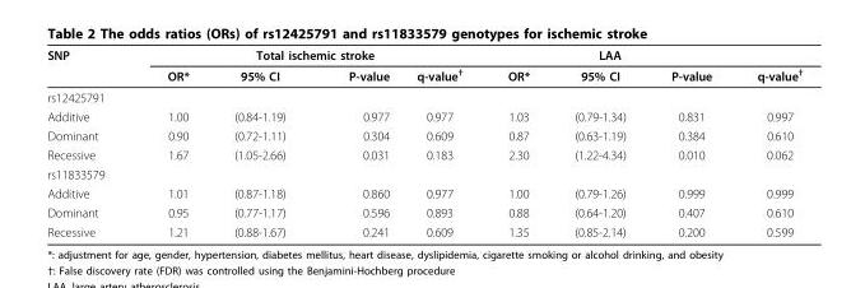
<table><thead><tr><td rowspan="2">SNP</td><td colspan="4">Total ischemic stroke</td><td colspan="3">LAA</td><td rowspan="2">q-value<sup>†</sup></td></tr><tr><td>OR*</td><td>95% CI</td><td>P-value</td><td>q-value<sup>†</sup></td><td>OR*</td><td>95% CI</td><td>P-value</td></tr></thead><tbody><tr><td colspan="9">rs12425791</td></tr><tr><td>Additive</td><td>1.00</td><td>(0.84-1.19)</td><td>0.977</td><td>0.977</td><td>1.03</td><td>(0.79-1.34)</td><td>0.831</td><td>0.997</td></tr><tr><td>Dominant</td><td>0.90</td><td>(0.72-1.11)</td><td>0.304</td><td>0.609</td><td>0.87</td><td>(0.63-1.19)</td><td>0.384</td><td>0.610</td></tr><tr><td>Recessive</td><td>1.67</td><td>(1.05-2.66)</td><td>0.031</td><td>0.183</td><td>2.30</td><td>(1.22-4.34)</td><td>0.010</td><td>0.062</td></tr><tr><td colspan="9">rs11833579</td></tr><tr><td>Additive</td><td>1.01</td><td>(0.87-1.18)</td><td>0.860</td><td>0.977</td><td>1.00</td><td>(0.79-1.26)</td><td>0.999</td><td>0.999</td></tr><tr><td>Dominant</td><td>0.95</td><td>(0.77-1.17)</td><td>0.596</td><td>0.893</td><td>0.88</td><td>(0.64-1.20)</td><td>0.407</td><td>0.610</td></tr><tr><td>Recessive</td><td>1.21</td><td>(0.88-1.67)</td><td>0.241</td><td>0.609</td><td>1.35</td><td>(0.85-2.14)</td><td>0.200</td><td>0.599</td></tr></tbody></table>